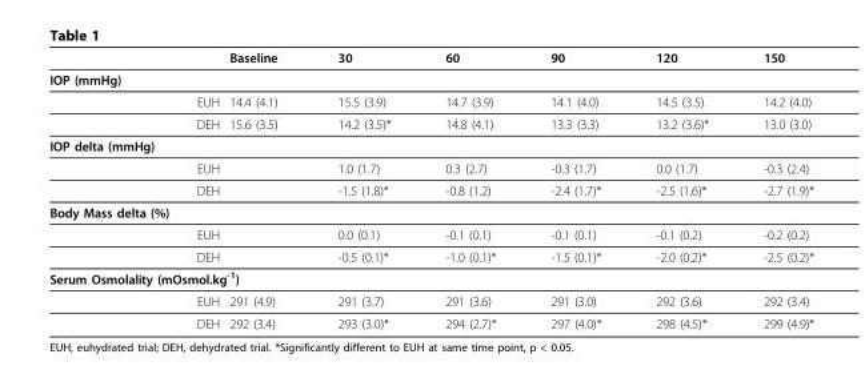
<table><thead><tr><td></td><td>Baseline</td><td>30</td><td>60</td><td>90</td><td>120</td><td>150</td></tr></thead><tbody><tr><td colspan="7">IOP (mmHg)</td></tr><tr><td>EUH</td><td>14.4 (4.1)</td><td>15.5 (3.9)</td><td>14.7 (3.9)</td><td>14.1 (4.0)</td><td>14.5 (3.5)</td><td>14.2 (4.0)</td></tr><tr><td>DEH</td><td>15.6 (3.5)</td><td>14.2 (3.5)*</td><td>14.8 (4.1)</td><td>13.3 (3.3)</td><td>13.2 (3.6)*</td><td>13.0 (3.0)</td></tr><tr><td colspan="7">IOP delta (mmHg)</td></tr><tr><td>EUH</td><td></td><td>1.0 (1.7)</td><td>0.3 (2.7)</td><td>-0.3 (1.7)</td><td>0.0 (1.7)</td><td>-0.3 (2.4)</td></tr><tr><td>DEH</td><td></td><td>-1.5 (1.8)*</td><td>-0.8 (1.2)</td><td>-2.4 (1.7)*</td><td>-2.5 (1.6)*</td><td>-2.7 (1.9)*</td></tr><tr><td colspan="7">Body Mass delta (%)</td></tr><tr><td>EUH</td><td></td><td>0.0 (0.1)</td><td>-0.1 (0.1)</td><td>-0.1 (0.1)</td><td>-0.1 (0.2)</td><td>-0.2 (0.2)</td></tr><tr><td>DEH</td><td></td><td>-0.5 (0.1)*</td><td>-1.0 (0.1)*</td><td>-1.5 (0.1)*</td><td>-2.0 (0.2)*</td><td>-2.5 (0.2)*</td></tr><tr><td colspan="7">Serum Osmolality (mOsmol.kg<sup>-1</sup>)</td></tr><tr><td>EUH</td><td>291 (4.9)</td><td>291 (3.7)</td><td>291 (3.6)</td><td>291 (3.0)</td><td>292 (3.6)</td><td>292 (3.4)</td></tr><tr><td>DEH</td><td>292 (3.4)</td><td>293 (3.0)*</td><td>294 (2.7)*</td><td>297 (4.0)*</td><td>298 (4.5)*</td><td>299 (4.9)*</td></tr></tbody></table>